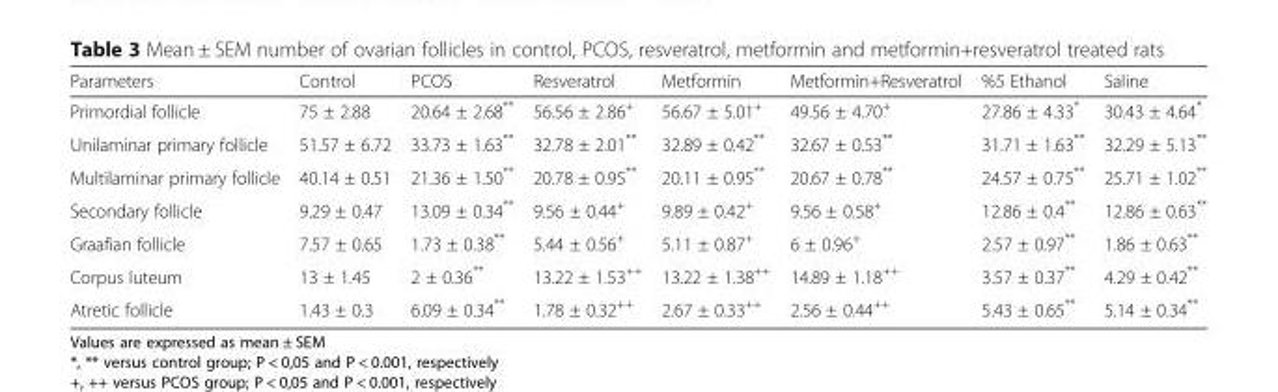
<table><thead><tr><td>Parameters</td><td>Control</td><td>PCOS</td><td>Resveratrol</td><td>Metformin</td><td>Metformin+Resveratrol</td><td>%5 Ethanol</td><td>Saline</td></tr></thead><tbody><tr><td>Primordial follicle</td><td>75 ± 2.88</td><td>20.64 ± 2.68**</td><td>56.56 ± 2.86<sup>+</sup></td><td>56.67 ± 5.01<sup>+</sup></td><td>49.56 ± 4.70<sup>+</sup></td><td>27.86 ± 4.33*</td><td>30.43 ± 4.64*</td></tr><tr><td>Unilaminar primary follicle</td><td>51.57 ± 6.72</td><td>33.73 ± 1.63**</td><td>32.78 ± 2.01**</td><td>32.89 ± 0.42**</td><td>32.67 ± 0.53**</td><td>31.71 ± 1.63**</td><td>32.29 ± 5.13**</td></tr><tr><td>Multilaminar primary follicle</td><td>40.14 ± 0.51</td><td>21.36 ± 1.50**</td><td>20.78 ± 0.95**</td><td>20.11 ± 0.95**</td><td>20.67 ± 0.78**</td><td>24.57 ± 0.75**</td><td>25.71 ± 1.02**</td></tr><tr><td>Secondary follicle</td><td>9.29 ± 0.47</td><td>13.09 ± 0.34**</td><td>9.56 ± 0.44<sup>+</sup></td><td>9.89 ± 0.42<sup>+</sup></td><td>9.56 ± 0.58<sup>+</sup></td><td>12.86 ± 0.4**</td><td>12.86 ± 0.63**</td></tr><tr><td>Graafian follicle</td><td>7.57 ± 0.65</td><td>1.73 ± 0.38**</td><td>5.44 ± 0.56<sup>+</sup></td><td>5.11 ± 0.87<sup>+</sup></td><td>6 ± 0.96<sup>+</sup></td><td>2.57 ± 0.97**</td><td>1.86 ± 0.63**</td></tr><tr><td>Corpus luteum</td><td>13 ± 1.45</td><td>2 ± 0.36**</td><td>13.22 ± 1.53<sup>++</sup></td><td>13.22 ± 1.38<sup>++</sup></td><td>14.89 ± 1.18<sup>++</sup></td><td>3.57 ± 0.37**</td><td>4.29 ± 0.42**</td></tr><tr><td>Atretic follicle</td><td>1.43 ± 0.3</td><td>6.09 ± 0.34**</td><td>1.78 ± 0.32<sup>++</sup></td><td>2.67 ± 0.33<sup>++</sup></td><td>2.56 ± 0.44<sup>++</sup></td><td>5.43 ± 0.65**</td><td>5.14 ± 0.34**</td></tr></tbody></table>